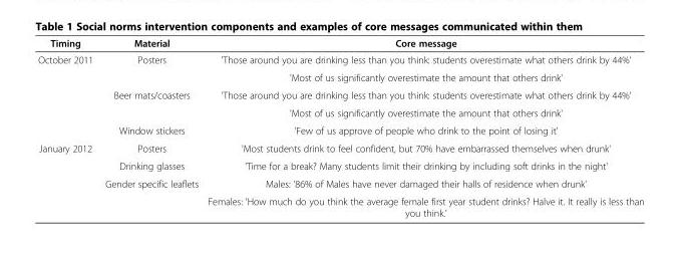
<table><thead><tr><td>Timing</td><td>Material</td><td>Core message</td></tr></thead><tbody><tr><td rowspan="5">October 2011</td><td rowspan="2">Posters</td><td>&#x27;Those around you are drinking less than you think: students overestimate what others drink by 44%&#x27;</td></tr><tr><td>&#x27;Most of us significantly overestimate the amount that others drink&#x27;</td></tr><tr><td rowspan="2">Beer mats/coasters</td><td>&#x27;Those around you are drinking less than you think: students overestimate what others drink by 44%&#x27;</td></tr><tr><td>&#x27;Most of us significantly overestimate the amount that others drink&#x27;</td></tr><tr><td>Window stickers</td><td>&#x27;Few of us approve of people who drink to the point of losing it&#x27;</td></tr><tr><td rowspan="4">January 2012</td><td>Posters</td><td>&#x27;Most students drink to feel confident, but 70% have embarrassed themselves when drunk&#x27;</td></tr><tr><td>Drinking glasses</td><td>&#x27;Time for a break? Many students limit their drinking by including soft drinks in the night&#x27;</td></tr><tr><td>Gender specific leaflets</td><td>Males: &#x27;86% of Males have never damaged their halls of residence when drunk&#x27;</td></tr><tr><td></td><td>Females: &#x27;How much do you think the average female first year student drinks? Halve it. It really is less than you think.&#x27;</td></tr></tbody></table>